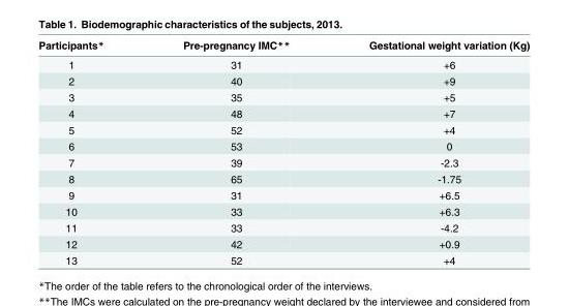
<table><thead><tr><td>Participants*</td><td>Pre-pregnancy IMC**</td><td>Gestational weight variation (Kg)</td></tr></thead><tbody><tr><td>1</td><td>31</td><td>+6</td></tr><tr><td>2</td><td>40</td><td>+9</td></tr><tr><td>3</td><td>35</td><td>+5</td></tr><tr><td>4</td><td>48</td><td>+7</td></tr><tr><td>5</td><td>52</td><td>+4</td></tr><tr><td>6</td><td>53</td><td>0</td></tr><tr><td>7</td><td>39</td><td>-2.3</td></tr><tr><td>8</td><td>65</td><td>-1.75</td></tr><tr><td>9</td><td>31</td><td>+6.5</td></tr><tr><td>10</td><td>33</td><td>+6.3</td></tr><tr><td>11</td><td>33</td><td>-4.2</td></tr><tr><td>12</td><td>42</td><td>+0.9</td></tr><tr><td>13</td><td>52</td><td>+4</td></tr></tbody></table>